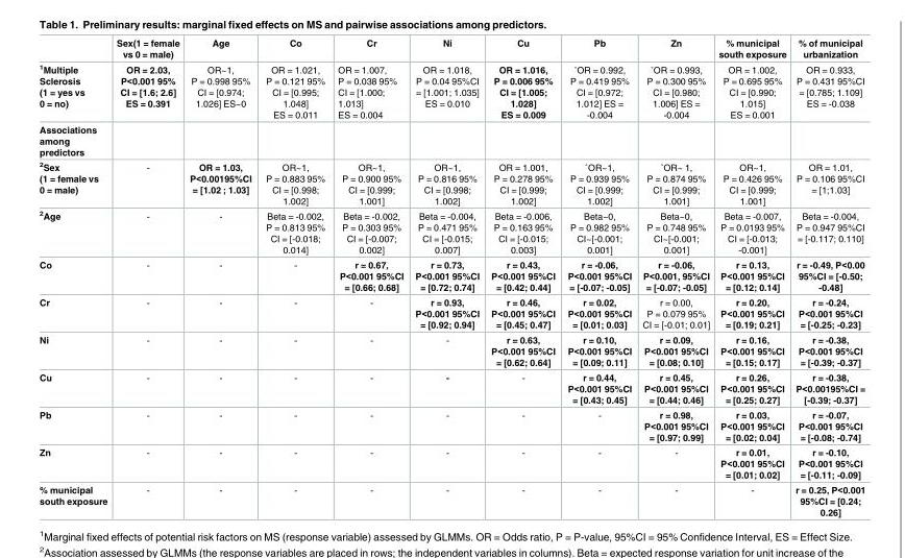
<table><thead><tr><td></td><td>Sex(1 = female vs 0 = male)</td><td>Age</td><td>Co</td><td>Cr</td><td>Ni</td><td>Cu</td><td>Pb</td><td>Zn</td><td>% municipal south exposure</td><td>% of municipal urbanization</td></tr></thead><tbody><tr><td><sup>1</sup>Multiple Sclerosis (1 = yes vs 0 = no)</td><td>OR = 2.03, P&lt;0.001 95% CI = [1.6; 2.6] ES = 0.391</td><td>OR~1, P = 0.998 95% CI = [0.974; 1.026] ES~0</td><td>OR = 1.021, P = 0.121 95% CI = [0.995; 1.048] ES = 0.011</td><td>OR = 1.007, P = 0.038 95% CI = [1.000; 1.013] ES = 0.004</td><td>OR = 1.018, P = 0.04 95%CI = [1.001; 1.035] ES = 0.010</td><td>OR = 1.016, P = 0.006 95% CI = [1.005; 1.028] ES = 0.009</td><td>˚OR = 0.992, P = 0.419 95% CI = [0.972; 1.012] ES = -0.004</td><td>˚OR = 0.993, P = 0.300 95% CI = [0.980; 1.006] ES = -0.004</td><td>OR = 1.002, P = 0.695 95% CI = [0.990; 1.015] ES = 0.001</td><td>OR = 0.933, P = 0.431 95%CI = [0.785; 1.109] ES = -0.038</td></tr><tr><td colspan="11">Associations among predictors</td></tr><tr><td><sup>2</sup>Sex (1 = female vs 0 = male)</td><td>-</td><td>OR = 1.03, P&lt;0.00195%CI = [1.02 ; 1.03]</td><td>OR~1, P = 0.883 95% CI = [0.998; 1.002]</td><td>OR~1, P = 0.900 95% CI = [0.999; 1.001]</td><td>OR~1, P = 0.816 95% CI = [0.998; 1.002]</td><td>OR = 1.001, P = 0.278 95% CI = [0.999; 1.002]</td><td>˚OR~1, P = 0.939 95% CI = [0.999; 1.002]</td><td>˚OR~ 1, P = 0.874 95% CI = [0.999; 1.001]</td><td>OR~1, P = 0.426 95% CI = [0.999; 1.001]</td><td>OR = 1.01, P = 0.106 95%CI = [1;1.03]</td></tr><tr><td><sup>2</sup>Age</td><td>-</td><td>-</td><td>Beta = -0.002, P = 0.813 95% CI = [-0.018; 0.014]</td><td>Beta = -0.002, P = 0.303 95% CI = [-0.007; 0.002]</td><td>Beta = -0.004, P = 0.471 95% CI = [-0.015; 0.007]</td><td>Beta = -0.006, P = 0.163 95% CI = [-0.015; 0.003]</td><td>Beta~0, P = 0.982 95% CI~[-0.001; 0.001]</td><td>Beta~0, P = 0.748 95% CI~[-0.001; 0.001]</td><td>Beta = -0.007, P = 0.0193 95% CI = [-0.013; -0.001]</td><td>Beta = -0.004, P = 0.947 95%CI = [-0.117; 0.110]</td></tr><tr><td>Co</td><td>-</td><td>-</td><td>-</td><td>r = 0.67, P&lt;0.001 95%CI = [0.66; 0.68]</td><td>r = 0.73, P&lt;0.001 95%CI = [0.72; 0.74]</td><td>r = 0.43, P&lt;0.001 95%CI = [0.42; 0.44]</td><td>r = -0.06, P&lt;0.001 95%CI = [-0.07; -0.05]</td><td>r = -0.06, P&lt;0.001, 95%CI = [-0.07; -0.05]</td><td>r = 0.13, P&lt;0.001 95%CI = [0.12; 0.14]</td><td>r = -0.49, P&lt;0.00 95%CI = [-0.50; -0.48]</td></tr><tr><td>Cr</td><td>-</td><td>-</td><td>-</td><td>-</td><td>r = 0.93, P&lt;0.001 95%CI = [0.92; 0.94]</td><td>r = 0.46, P&lt;0.001 95%CI = [0.45; 0.47]</td><td>r = 0.02, P&lt;0.001 95%CI = [0.01; 0.03]</td><td>r = 0.00, P = 0.079 95% CI = [-0.01; 0.01]</td><td>r = 0.20, P&lt;0.001 95%CI = [0.19; 0.21]</td><td>r = -0.24, P&lt;0.001 95%CI = [-0.25; -0.23]</td></tr><tr><td>Ni</td><td>-</td><td>-</td><td>-</td><td>-</td><td>-</td><td>r = 0.63, P&lt;0.001 95%CI = [0.62; 0.64]</td><td>r = 0.10, P&lt;0.001 95%CI = [0.09; 0.11]</td><td>r = 0.09, P&lt;0.001 95%CI = [0.08; 0.10]</td><td>r = 0.16, P&lt;0.001 95%CI = [0.15; 0.17]</td><td>r = -0.38, P&lt;0.001 95%CI = [-0.39; -0.37]</td></tr><tr><td>Cu</td><td>-</td><td>-</td><td>-</td><td>-</td><td>-</td><td>-</td><td>r = 0.44, P&lt;0.001 95%CI = [0.43; 0.45]</td><td>r = 0.45, P&lt;0.001 95%CI = [0.44; 0.46]</td><td>r = 0.26, P&lt;0.001 95%CI = [0.25; 0.27]</td><td>r = -0.38, P&lt;0.00195%CI = [-0.39; -0.37]</td></tr><tr><td>Pb</td><td>-</td><td>-</td><td>-</td><td>-</td><td>-</td><td>-</td><td>-</td><td>r = 0.98, P&lt;0.001 95%CI = [0.97; 0.99]</td><td>r = 0.03, P&lt;0.001 95%CI = [0.02; 0.04]</td><td>r = -0.07, P&lt;0.001 95%CI = [-0.08; -0.74]</td></tr><tr><td>Zn</td><td>-</td><td>-</td><td>-</td><td>-</td><td>-</td><td>-</td><td>-</td><td>-</td><td>r = 0.01, P&lt;0.001 95%CI = [0.01; 0.02]</td><td>r = -0.10, P&lt;0.001 95%CI = [-0.11; -0.09]</td></tr><tr><td>% municipal south exposure</td><td>-</td><td>-</td><td>-</td><td>-</td><td>-</td><td>-</td><td>-</td><td>-</td><td>-</td><td>r = 0.25, P&lt;0.001 95%CI = [0.24; 0.26]</td></tr></tbody></table>